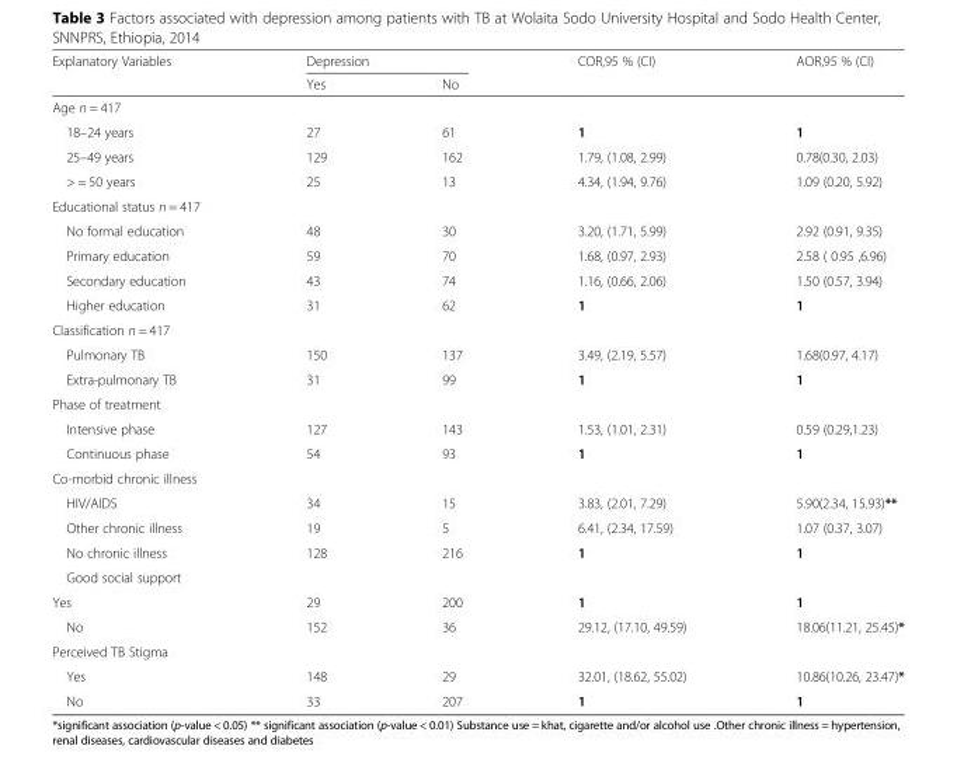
<table><thead><tr><td rowspan="2">Explanatory Variables</td><td colspan="2">Depression</td><td rowspan="2">COR,95 % (CI)</td><td rowspan="2">AOR,95 % (CI)</td></tr><tr><td>Yes</td><td>No</td></tr></thead><tbody><tr><td colspan="5">Age n = 417</td></tr><tr><td>18–24 years</td><td>27</td><td>61</td><td>1</td><td>1</td></tr><tr><td>25–49 years</td><td>129</td><td>162</td><td>1.79, (1.08, 2.99)</td><td>0.78(0.30, 2.03)</td></tr><tr><td>&gt; = 50 years</td><td>25</td><td>13</td><td>4.34, (1.94, 9.76)</td><td>1.09 (0.20, 5.92)</td></tr><tr><td colspan="5">Educational status n = 417</td></tr><tr><td>No formal education</td><td>48</td><td>30</td><td>3.20, (1.71, 5.99)</td><td>2.92 (0.91, 9.35)</td></tr><tr><td>Primary education</td><td>59</td><td>70</td><td>1.68, (0.97, 2.93)</td><td>2.58 ( 0.95 ,6.96)</td></tr><tr><td>Secondary education</td><td>43</td><td>74</td><td>1.16, (0.66, 2.06)</td><td>1.50 (0.57, 3.94)</td></tr><tr><td>Higher education</td><td>31</td><td>62</td><td>1</td><td>1</td></tr><tr><td colspan="5">Classification n = 417</td></tr><tr><td>Pulmonary TB</td><td>150</td><td>137</td><td>3.49, (2.19, 5.57)</td><td>1.68(0.97, 4.17)</td></tr><tr><td>Extra-pulmonary TB</td><td>31</td><td>99</td><td>1</td><td>1</td></tr><tr><td colspan="5">Phase of treatment</td></tr><tr><td>Intensive phase</td><td>127</td><td>143</td><td>1.53, (1.01, 2.31)</td><td>0.59 (0.29,1.23)</td></tr><tr><td>Continuous phase</td><td>54</td><td>93</td><td>1</td><td>1</td></tr><tr><td colspan="5">Co-morbid chronic illness</td></tr><tr><td>HIV/AIDS</td><td>34</td><td>15</td><td>3.83, (2.01, 7.29)</td><td>5.90(2.34, 15.93)**</td></tr><tr><td>Other chronic illness</td><td>19</td><td>5</td><td>6.41, (2.34, 17.59)</td><td>1.07 (0.37, 3.07)</td></tr><tr><td>No chronic illness</td><td>128</td><td>216</td><td>1</td><td>1</td></tr><tr><td colspan="5">Good social support</td></tr><tr><td>Yes</td><td>29</td><td>200</td><td>1</td><td>1</td></tr><tr><td>No</td><td>152</td><td>36</td><td>29.12, (17.10, 49.59)</td><td>18.06(11.21, 25.45)*</td></tr><tr><td colspan="5">Perceived TB Stigma</td></tr><tr><td>Yes</td><td>148</td><td>29</td><td>32.01, (18.62, 55.02)</td><td>10.86(10.26, 23.47)*</td></tr><tr><td>No</td><td>33</td><td>207</td><td>1</td><td>1</td></tr></tbody></table>